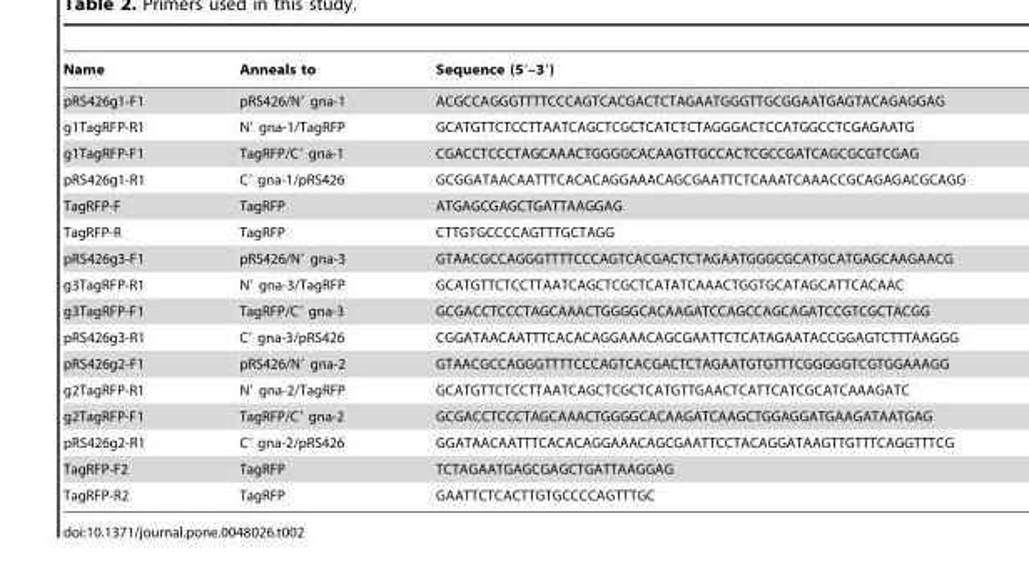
<table><thead><tr><td>Name</td><td>Anneals to</td><td>Sequence (5′–3′)</td></tr></thead><tbody><tr><td>pRS426g1-F1</td><td>pRS426/N′ gna-1</td><td>ACGCCAGGGTTTTCCCAGTCACGACTCTAGAATGGGTTGCGGAATGAGTACAGAGGAG</td></tr><tr><td>g1TagRFP-R1</td><td>N′ gna-1/TagRFP</td><td>GCATGTTCTCCTTAATCAGCTCGCTCATCTCTAGGGACTCCATGGCCTCGAGAATG</td></tr><tr><td>g1TagRFP-F1</td><td>TagRFP/C′ gna-1</td><td>CGACCTCCCTAGCAAACTGGGGCACAAGTTGCCACTCGCCGATCAGCGCGTCGAG</td></tr><tr><td>pRS426g1-R1</td><td>C′ gna-1/pRS426</td><td>GCGGATAACAATTTCACACAGGAAACAGCGAATTCTCAAATCAAACCGCAGAGACGCAGG</td></tr><tr><td>TagRFP-F</td><td>TagRFP</td><td>ATGAGCGAGCTGATTAAGGAG</td></tr><tr><td>TagRFP-R</td><td>TagRFP</td><td>CTTGTGCCCCAGTTTGCTAGG</td></tr><tr><td>pRS426g3-F1</td><td>pRS426/N′ gna-3</td><td>GTAACGCCAGGGTTTTCCCAGTCACGACTCTAGAATGGGCGCATGCATGAGCAAGAACG</td></tr><tr><td>g3TagRFP-R1</td><td>N′ gna-3/TagRFP</td><td>GCATGTTCTCCTTAATCAGCTCGCTCATATCAAACTGGTGCATAGCATTCACAAC</td></tr><tr><td>g3TagRFP-F1</td><td>TagRFP/C′ gna-3</td><td>GCGACCTCCCTAGCAAACTGGGGCACAAGATCCAGCCAGCAGATCCGTCGCTACGG</td></tr><tr><td>pRS426g3-R1</td><td>C′ gna-3/pRS426</td><td>CGGATAACAATTTCACACAGGAAACAGCGAATTCTCATAGAATACCGGAGTCTTTAAGGG</td></tr><tr><td>pRS426g2-F1</td><td>pRS426/N′ gna-2</td><td>GTAACGCCAGGGTTTTCCCAGTCACGACTCTAGAATGTGTTTCGGGGGTCGTGGAAAGG</td></tr><tr><td>g2TagRFP-R1</td><td>N′ gna-2/TagRFP</td><td>GCATGTTCTCCTTAATCAGCTCGCTCATGTTGAACTCATTCATCGCATCAAAGATC</td></tr><tr><td>g2TagRFP-F1</td><td>TagRFP/C′ gna-2</td><td>GCGACCTCCCTAGCAAACTGGGGCACAAGATCAAGCTGGAGGATGAAGATAATGAG</td></tr><tr><td>pRS426g2-R1</td><td>C′ gna-2/pRS426</td><td>GGATAACAATTTCACACAGGAAACAGCGAATTCCTACAGGATAAGTTGTTTCAGGTTTCG</td></tr><tr><td>TagRFP-F2</td><td>TagRFP</td><td>TCTAGAATGAGCGAGCTGATTAAGGAG</td></tr><tr><td>TagRFP-R2</td><td>TagRFP</td><td>GAATTCTCACTTGTGCCCCAGTTTGC</td></tr></tbody></table>